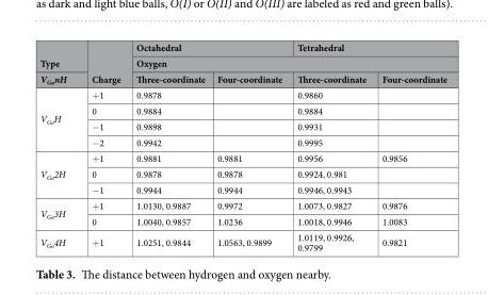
<table><thead><tr><td rowspan="3">Type V<sub>Ga</sub>nH</td><td rowspan="3">Charge</td><td colspan="2">Octahedral</td><td colspan="2">Tetrahedral</td></tr><tr><td colspan="4">Oxygen</td></tr><tr><td>Three-coordinate</td><td>Four-coordinate</td><td>Three-coordinate</td><td>Four-coordinate</td></tr></thead><tbody><tr><td rowspan="4">V<sub>Ga</sub>H</td><td>+1</td><td>0.9878</td><td></td><td>0.9860</td><td></td></tr><tr><td>0</td><td>0.9884</td><td></td><td>0.9884</td><td></td></tr><tr><td>−1</td><td>0.9898</td><td></td><td>0.9931</td><td></td></tr><tr><td>−2</td><td>0.9942</td><td></td><td>0.9995</td><td></td></tr><tr><td rowspan="3">V<sub>Ga</sub>2H</td><td>+1</td><td>0.9881</td><td>0.9881</td><td>0.9956</td><td>0.9856</td></tr><tr><td>0</td><td>0.9878</td><td>0.9878</td><td>0.9924, 0.981</td><td></td></tr><tr><td>−1</td><td>0.9944</td><td>0.9944</td><td>0.9946, 0.9943</td><td></td></tr><tr><td rowspan="2">V<sub>Ga</sub>3H</td><td>+1</td><td>1.0130, 0.9887</td><td>0.9972</td><td>1.0073, 0.9827</td><td>0.9876</td></tr><tr><td>0</td><td>1.0040, 0.9857</td><td>1.0236</td><td>1.0018, 0.9946</td><td>1.0083</td></tr><tr><td>V<sub>Ga</sub>4H</td><td>+1</td><td>1.0251, 0.9844</td><td>1.0563, 0.9899</td><td>1.0119, 0.9926, 0.9799</td><td>0.9821</td></tr></tbody></table>